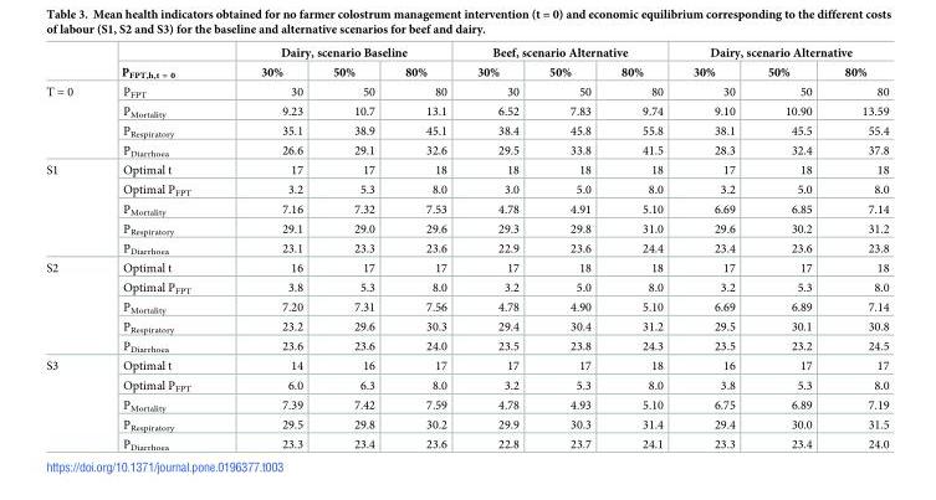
<table><thead><tr><td rowspan="2"></td><td rowspan="2">P<sub>FPT,h,t = 0</sub></td><td colspan="3">Dairy, scenario Baseline</td><td colspan="3">Beef, scenario Alternative</td><td colspan="3">Dairy, scenario Alternative</td></tr><tr><td>30%</td><td>50%</td><td>80%</td><td>30%</td><td>50%</td><td>80%</td><td>30%</td><td>50%</td><td>80%</td></tr></thead><tbody><tr><td rowspan="4">T = 0</td><td>P<sub>FPT</sub></td><td>30</td><td>50</td><td>80</td><td>30</td><td>50</td><td>80</td><td>30</td><td>50</td><td>80</td></tr><tr><td>P<sub>Mortality</sub></td><td>9.23</td><td>10.7</td><td>13.1</td><td>6.52</td><td>7.83</td><td>9.74</td><td>9.10</td><td>10.90</td><td>13.59</td></tr><tr><td>P<sub>Respiratory</sub></td><td>35.1</td><td>38.9</td><td>45.1</td><td>38.4</td><td>45.8</td><td>55.8</td><td>38.1</td><td>45.5</td><td>55.4</td></tr><tr><td>P<sub>Diarrhoea</sub></td><td>26.6</td><td>29.1</td><td>32.6</td><td>29.5</td><td>33.8</td><td>41.5</td><td>28.3</td><td>32.4</td><td>37.8</td></tr><tr><td rowspan="5">S1</td><td>Optimal t</td><td>17</td><td>17</td><td>18</td><td>18</td><td>18</td><td>18</td><td>17</td><td>18</td><td>18</td></tr><tr><td>Optimal P<sub>FPT</sub></td><td>3.2</td><td>5.3</td><td>8.0</td><td>3.0</td><td>5.0</td><td>8.0</td><td>3.2</td><td>5.0</td><td>8.0</td></tr><tr><td>P<sub>Mortality</sub></td><td>7.16</td><td>7.32</td><td>7.53</td><td>4.78</td><td>4.91</td><td>5.10</td><td>6.69</td><td>6.85</td><td>7.14</td></tr><tr><td>P<sub>Respiratory</sub></td><td>29.1</td><td>29.0</td><td>29.6</td><td>29.3</td><td>29.8</td><td>31.0</td><td>29.6</td><td>30.2</td><td>31.2</td></tr><tr><td>P<sub>Diarrhoea</sub></td><td>23.1</td><td>23.3</td><td>23.6</td><td>22.9</td><td>23.6</td><td>24.4</td><td>23.4</td><td>23.6</td><td>23.8</td></tr><tr><td rowspan="5">S2</td><td>Optimal t</td><td>16</td><td>17</td><td>17</td><td>17</td><td>18</td><td>18</td><td>17</td><td>17</td><td>18</td></tr><tr><td>Optimal P<sub>FPT</sub></td><td>3.8</td><td>5.3</td><td>8.0</td><td>3.2</td><td>5.0</td><td>8.0</td><td>3.2</td><td>5.3</td><td>8.0</td></tr><tr><td>P<sub>Mortality</sub></td><td>7.20</td><td>7.31</td><td>7.56</td><td>4.78</td><td>4.90</td><td>5.10</td><td>6.69</td><td>6.89</td><td>7.14</td></tr><tr><td>P<sub>Respiratory</sub></td><td>23.2</td><td>29.6</td><td>30.3</td><td>29.4</td><td>30.4</td><td>31.2</td><td>29.5</td><td>30.1</td><td>30.8</td></tr><tr><td>P<sub>Diarrhoea</sub></td><td>23.6</td><td>23.6</td><td>24.0</td><td>23.5</td><td>23.8</td><td>24.3</td><td>23.5</td><td>23.2</td><td>24.5</td></tr><tr><td rowspan="5">S3</td><td>Optimal t</td><td>14</td><td>16</td><td>17</td><td>17</td><td>17</td><td>18</td><td>16</td><td>17</td><td>17</td></tr><tr><td>Optimal P<sub>FPT</sub></td><td>6.0</td><td>6.3</td><td>8.0</td><td>3.2</td><td>5.3</td><td>8.0</td><td>3.8</td><td>5.3</td><td>8.0</td></tr><tr><td>P<sub>Mortality</sub></td><td>7.39</td><td>7.42</td><td>7.59</td><td>4.78</td><td>4.93</td><td>5.10</td><td>6.75</td><td>6.89</td><td>7.19</td></tr><tr><td>P<sub>Respiratory</sub></td><td>29.5</td><td>29.8</td><td>30.2</td><td>29.9</td><td>30.3</td><td>31.4</td><td>29.4</td><td>30.0</td><td>31.5</td></tr><tr><td>P<sub>Diarrhoea</sub></td><td>23.3</td><td>23.4</td><td>23.6</td><td>22.8</td><td>23.7</td><td>24.1</td><td>23.3</td><td>23.4</td><td>24.0</td></tr></tbody></table>